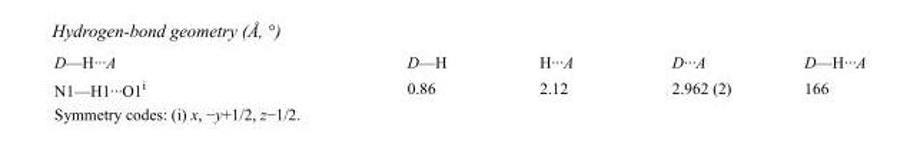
<table><tbody><tr><td>D—H···A</td><td>D—H</td><td>H···A</td><td>D···A</td><td>D—H···A</td></tr><tr><td>N1—H1···O1<sup>i</sup></td><td>0.86</td><td>2.12</td><td>2.962 (2)</td><td>166</td></tr></tbody></table>